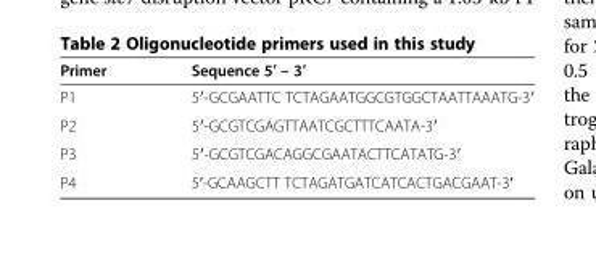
<table><thead><tr><td>Primer</td><td>Sequence 5′ – 3′</td></tr></thead><tbody><tr><td>P1</td><td>5′-GCGAATTC TCTAGAATGGCGTGGCTAATTAAATG-3′</td></tr><tr><td>P2</td><td>5′-GCGTCGAGTTAATCGCTTTCAATA-3′</td></tr><tr><td>P3</td><td>5′-GCGTCGACAGGCGAATACTTCATATG-3′</td></tr><tr><td>P4</td><td>5′-GCAAGCTT TCTAGATGATCATCACTGACGAAT-3′</td></tr></tbody></table>